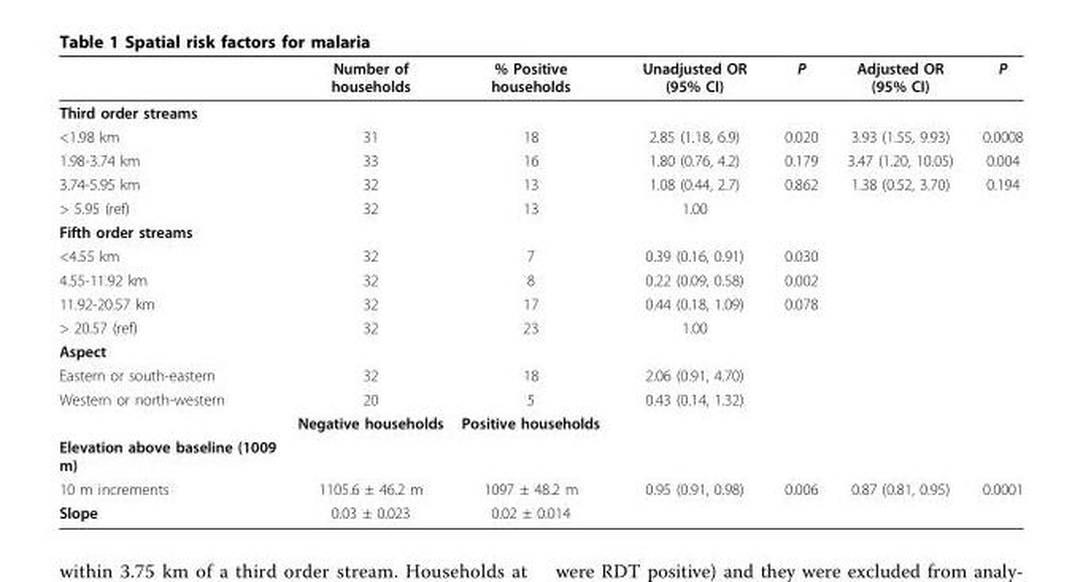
<table><thead><tr><td></td><td>Number of households</td><td>% Positive households</td><td>Unadjusted OR (95% CI)</td><td>P</td><td>Adjusted OR (95% CI)</td><td>P</td></tr></thead><tbody><tr><td colspan="7">Third order streams</td></tr><tr><td>&lt;1.98 km</td><td>31</td><td>18</td><td>2.85 (1.18, 6.9)</td><td>0.020</td><td>3.93 (1.55, 9.93)</td><td>0.0008</td></tr><tr><td>1.98-3.74 km</td><td>33</td><td>16</td><td>1.80 (0.76, 4.2)</td><td>0.179</td><td>3.47 (1.20, 10.05)</td><td>0.004</td></tr><tr><td>3.74-5.95 km</td><td>32</td><td>13</td><td>1.08 (0.44, 2.7)</td><td>0.862</td><td>1.38 (0.52, 3.70)</td><td>0.194</td></tr><tr><td>&gt; 5.95 (ref)</td><td>32</td><td>13</td><td>1.00</td><td></td><td></td><td></td></tr><tr><td colspan="7">Fifth order streams</td></tr><tr><td>&lt;4.55 km</td><td>32</td><td>7</td><td>0.39 (0.16, 0.91)</td><td>0.030</td><td></td><td></td></tr><tr><td>4.55-11.92 km</td><td>32</td><td>8</td><td>0.22 (0.09, 0.58)</td><td>0.002</td><td></td><td></td></tr><tr><td>11.92-20.57 km</td><td>32</td><td>17</td><td>0.44 (0.18, 1.09)</td><td>0.078</td><td></td><td></td></tr><tr><td>&gt; 20.57 (ref)</td><td>32</td><td>23</td><td>1.00</td><td></td><td></td><td></td></tr><tr><td colspan="7">Aspect</td></tr><tr><td>Eastern or south-eastern</td><td>32</td><td>18</td><td>2.06 (0.91, 4.70)</td><td></td><td></td><td></td></tr><tr><td rowspan="2">Western or north-western</td><td>20</td><td>5</td><td>0.43 (0.14, 1.32)</td><td></td><td></td><td></td></tr><tr><td>Negative households</td><td>Positive households</td><td></td><td></td><td></td><td></td></tr><tr><td colspan="7">Elevation above baseline (1009 m)</td></tr><tr><td>10 m increments</td><td>1105.6 ± 46.2 m</td><td>1097 ± 48.2 m</td><td>0.95 (0.91, 0.98)</td><td>0.006</td><td>0.87 (0.81, 0.95)</td><td>0.0001</td></tr><tr><td>Slope</td><td>0.03 ± 0.023</td><td>0.02 ± 0.014</td><td></td><td></td><td></td><td></td></tr></tbody></table>